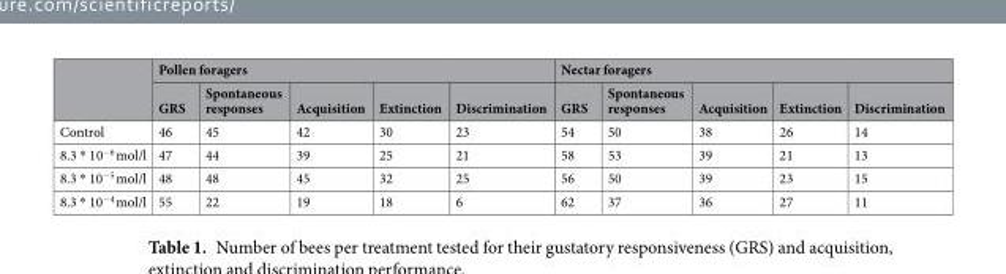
<table><thead><tr><td rowspan="2"></td><td colspan="5">Pollen foragers</td><td colspan="5">Nectar foragers</td></tr><tr><td>GRS</td><td>Spontaneous responses</td><td>Acquisition</td><td>Extinction</td><td>Discrimination</td><td>GRS</td><td>Spontaneous responses</td><td>Acquisition</td><td>Extinction</td><td>Discrimination</td></tr></thead><tbody><tr><td>Control</td><td>46</td><td>45</td><td>42</td><td>30</td><td>23</td><td>54</td><td>50</td><td>38</td><td>26</td><td>14</td></tr><tr><td>8.3 * 10<sup>−6</sup> mol/l</td><td>47</td><td>44</td><td>39</td><td>25</td><td>21</td><td>58</td><td>53</td><td>39</td><td>21</td><td>13</td></tr><tr><td>8.3 * 10<sup>−5</sup> mol/l</td><td>48</td><td>48</td><td>45</td><td>32</td><td>25</td><td>56</td><td>50</td><td>39</td><td>23</td><td>15</td></tr><tr><td>8.3 * 10<sup>−4</sup> mol/l</td><td>55</td><td>22</td><td>19</td><td>18</td><td>6</td><td>62</td><td>37</td><td>36</td><td>27</td><td>11</td></tr></tbody></table>